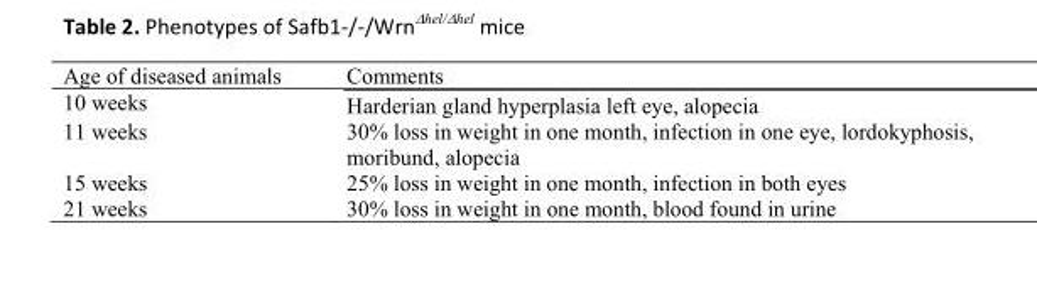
<table><thead><tr><td>Age of diseased animals</td><td>Comments</td></tr></thead><tbody><tr><td>10 weeks</td><td>Harderian gland hyperplasia left eye, alopecia</td></tr><tr><td>11 weeks</td><td>30% loss in weight in one month, infection in one eye, lordokyphosis, moribund, alopecia</td></tr><tr><td>15 weeks</td><td>25% loss in weight in one month, infection in both eyes</td></tr><tr><td>21 weeks</td><td>30% loss in weight in one month, blood found in urine</td></tr></tbody></table>